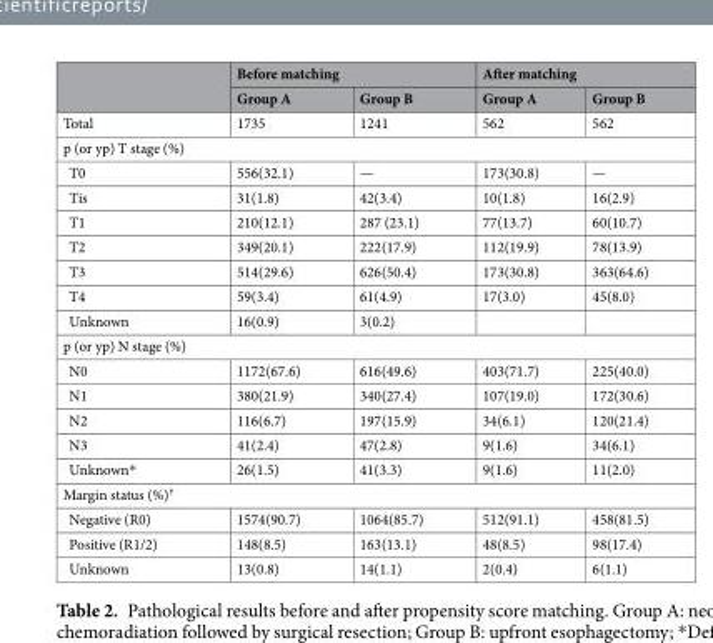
<table><thead><tr><td rowspan="2"></td><td colspan="2">Before matching</td><td colspan="2">After matching</td></tr><tr><td>Group A</td><td>Group B</td><td>Group A</td><td>Group B</td></tr></thead><tbody><tr><td>Total</td><td>1735</td><td>1241</td><td>562</td><td>562</td></tr><tr><td colspan="5">p (or yp) T stage (%)</td></tr><tr><td>T0</td><td>556(32.1)</td><td>—</td><td>173(30.8)</td><td>—</td></tr><tr><td>Tis</td><td>31(1.8)</td><td>42(3.4)</td><td>10(1.8)</td><td>16(2.9)</td></tr><tr><td>T1</td><td>210(12.1)</td><td>287 (23.1)</td><td>77(13.7)</td><td>60(10.7)</td></tr><tr><td>T2</td><td>349(20.1)</td><td>222(17.9)</td><td>112(19.9)</td><td>78(13.9)</td></tr><tr><td>T3</td><td>514(29.6)</td><td>626(50.4)</td><td>173(30.8)</td><td>363(64.6)</td></tr><tr><td>T4</td><td>59(3.4)</td><td>61(4.9)</td><td>17(3.0)</td><td>45(8.0)</td></tr><tr><td>Unknown</td><td>16(0.9)</td><td>3(0.2)</td><td></td><td></td></tr><tr><td colspan="5">p (or yp) N stage (%)</td></tr><tr><td>N0</td><td>1172(67.6)</td><td>616(49.6)</td><td>403(71.7)</td><td>225(40.0)</td></tr><tr><td>N1</td><td>380(21.9)</td><td>340(27.4)</td><td>107(19.0)</td><td>172(30.6)</td></tr><tr><td>N2</td><td>116(6.7)</td><td>197(15.9)</td><td>34(6.1)</td><td>120(21.4)</td></tr><tr><td>N3</td><td>41(2.4)</td><td>47(2.8)</td><td>9(1.6)</td><td>34(6.1)</td></tr><tr><td>Unknown*</td><td>26(1.5)</td><td>41(3.3)</td><td>9(1.6)</td><td>11(2.0)</td></tr><tr><td colspan="5">Margin status (%)<sup>†</sup></td></tr><tr><td>Negative (R0)</td><td>1574(90.7)</td><td>1064(85.7)</td><td>512(91.1)</td><td>458(81.5)</td></tr><tr><td>Positive (R1/2)</td><td>148(8.5)</td><td>163(13.1)</td><td>48(8.5)</td><td>98(17.4)</td></tr><tr><td>Unknown</td><td>13(0.8)</td><td>14(1.1)</td><td>2(0.4)</td><td>6(1.1)</td></tr></tbody></table>